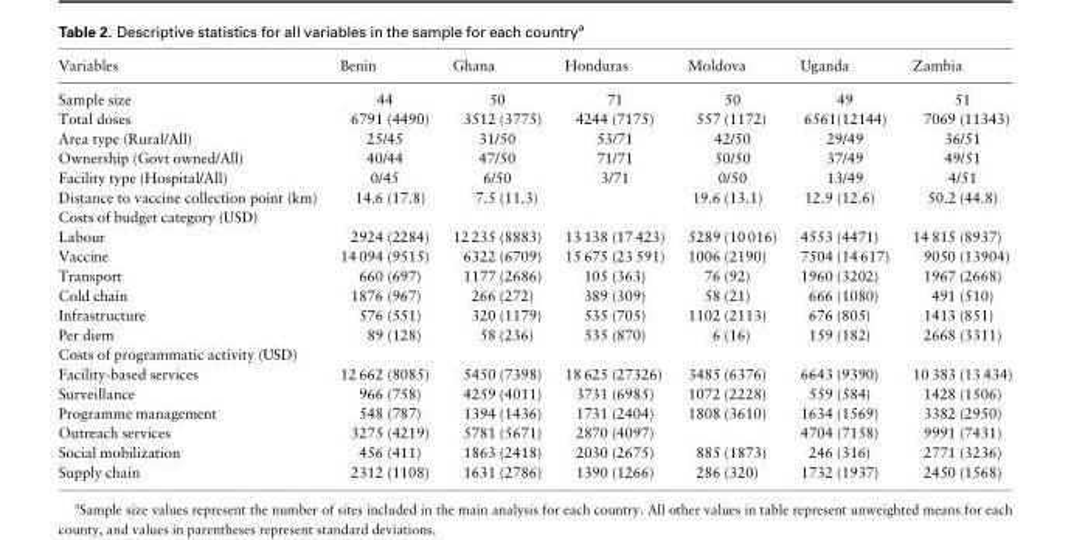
<table><thead><tr><td>Variables</td><td>Benin</td><td>Ghana</td><td>Honduras</td><td>Moldova</td><td>Uganda</td><td>Zambia</td></tr></thead><tbody><tr><td>Sample size</td><td>44</td><td>50</td><td>71</td><td>50</td><td>49</td><td>51</td></tr><tr><td>Total doses</td><td>6791 (4490)</td><td>3512 (3775)</td><td>4244 (7175)</td><td>557 (1172)</td><td>6561(12144)</td><td>7069 (11343)</td></tr><tr><td>Area type (Rural/All)</td><td>25/45</td><td>31/50</td><td>53/71</td><td>42/50</td><td>29/49</td><td>36/51</td></tr><tr><td>Ownership (Govt owned/All)</td><td>40/44</td><td>47/50</td><td>71/71</td><td>50/50</td><td>37/49</td><td>49/51</td></tr><tr><td>Facility type (Hospital/All)</td><td>0/45</td><td>6/50</td><td>3/71</td><td>0/50</td><td>13/49</td><td>4/51</td></tr><tr><td>Distance to vaccine collection point (km)</td><td>14.6 (17.8)</td><td>7.5 (11.3)</td><td></td><td>19.6 (13.1)</td><td>12.9 (12.6)</td><td>50.2 (44.8)</td></tr><tr><td colspan="7">Costs of budget category (USD)</td></tr><tr><td>Labour</td><td>2924 (2284)</td><td>12 235 (8883)</td><td>13 138 (17 423)</td><td>5289 (10 016)</td><td>4553 (4471)</td><td>14 815 (8937)</td></tr><tr><td>Vaccine</td><td>14 094 (9515)</td><td>6322 (6709)</td><td>15 675 (23 591)</td><td>1006 (2190)</td><td>7504 (14 617)</td><td>9050 (13904)</td></tr><tr><td>Transport</td><td>660 (697)</td><td>1177 (2686)</td><td>105 (363)</td><td>76 (92)</td><td>1960 (3202)</td><td>1967 (2668)</td></tr><tr><td>Cold chain</td><td>1876 (967)</td><td>266 (272)</td><td>389 (309)</td><td>58 (21)</td><td>666 (1080)</td><td>491 (510)</td></tr><tr><td>Infrastructure</td><td>576 (551)</td><td>320 (1179)</td><td>535 (705)</td><td>1102 (2113)</td><td>676 (805)</td><td>1413 (851)</td></tr><tr><td>Per diem</td><td>89 (128)</td><td>58 (236)</td><td>535 (870)</td><td>6 (16)</td><td>159 (182)</td><td>2668 (3311)</td></tr><tr><td colspan="7">Costs of programmatic activity (USD)</td></tr><tr><td>Facility-based services</td><td>12 662 (8085)</td><td>5450 (7398)</td><td>18 625 (27326)</td><td>3485 (6376)</td><td>6643 (9390)</td><td>10 383 (13 434)</td></tr><tr><td>Surveillance</td><td>966 (758)</td><td>4259 (4011)</td><td>3731 (6985)</td><td>1072 (2228)</td><td>559 (584)</td><td>1428 (1506)</td></tr><tr><td>Programme management</td><td>548 (787)</td><td>1394 (1436)</td><td>1731 (2404)</td><td>1808 (3610)</td><td>1634 (1569)</td><td>3382 (2950)</td></tr><tr><td>Outreach services</td><td>3275 (4219)</td><td>5781 (5671)</td><td>2870 (4097)</td><td></td><td>4704 (7158)</td><td>9991 (7431)</td></tr><tr><td>Social mobilization</td><td>456 (411)</td><td>1863 (2418)</td><td>2030 (2675)</td><td>885 (1873)</td><td>246 (316)</td><td>2771 (3236)</td></tr><tr><td>Supply chain</td><td>2312 (1108)</td><td>1631 (2786)</td><td>1390 (1266)</td><td>286 (320)</td><td>1732 (1937)</td><td>2450 (1568)</td></tr></tbody></table>